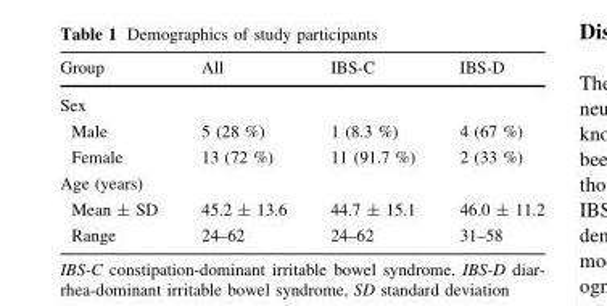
<table><thead><tr><td>Group</td><td>All</td><td>IBS-C</td><td>IBS-D</td></tr></thead><tbody><tr><td colspan="4">Sex</td></tr><tr><td>Male</td><td>5 (28 %)</td><td>1 (8.3 %)</td><td>4 (67 %)</td></tr><tr><td>Female</td><td>13 (72 %)</td><td>11 (91.7 %)</td><td>2 (33 %)</td></tr><tr><td colspan="4">Age (years)</td></tr><tr><td>Mean ± SD</td><td>45.2 ± 13.6</td><td>44.7 ± 15.1</td><td>46.0 ± 11.2</td></tr><tr><td>Range</td><td>24–62</td><td>24–62</td><td>31–58</td></tr></tbody></table>